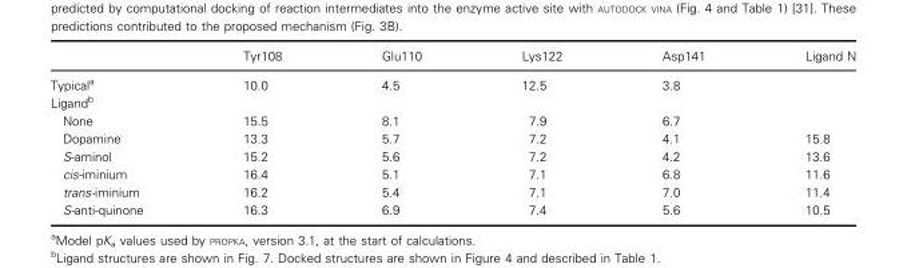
<table><thead><tr><td></td><td>Tyr108</td><td>Glu110</td><td>Lys122</td><td>Asp141</td><td>Ligand N</td></tr></thead><tbody><tr><td>Typical<sup>a</sup></td><td>10.0</td><td>4.5</td><td>12.5</td><td>3.8</td><td></td></tr><tr><td colspan="6">Ligand<sup>b</sup></td></tr><tr><td>None</td><td>15.5</td><td>8.1</td><td>7.9</td><td>6.7</td><td></td></tr><tr><td>Dopamine</td><td>13.3</td><td>5.7</td><td>7.2</td><td>4.1</td><td>15.8</td></tr><tr><td>S-aminol</td><td>15.2</td><td>5.6</td><td>7.2</td><td>4.2</td><td>13.6</td></tr><tr><td>cis-iminium</td><td>16.4</td><td>5.1</td><td>7.1</td><td>6.8</td><td>11.6</td></tr><tr><td>trans-iminium</td><td>16.2</td><td>5.4</td><td>7.1</td><td>7.0</td><td>11.4</td></tr><tr><td>S-anti-quinone</td><td>16.3</td><td>6.9</td><td>7.4</td><td>5.6</td><td>10.5</td></tr></tbody></table>